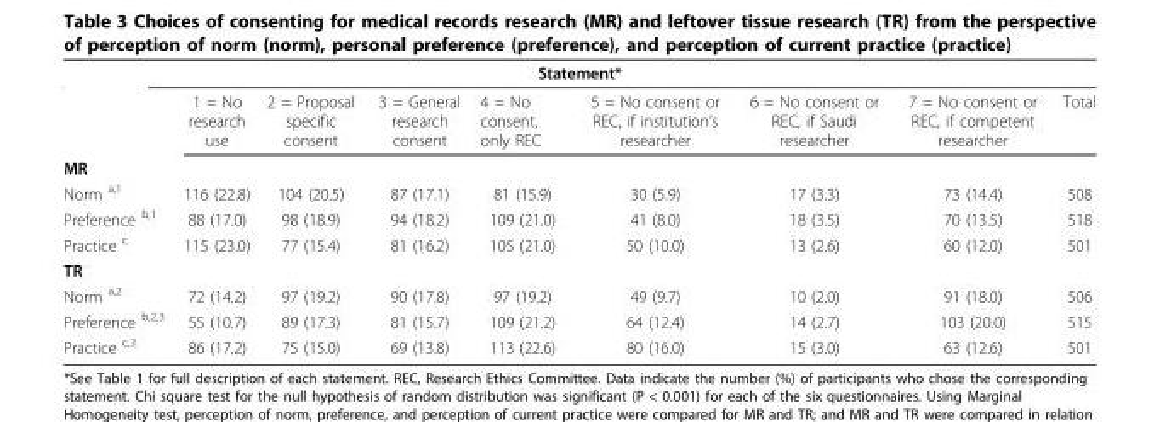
<table><thead><tr><td colspan="9">Statement*</td></tr><tr><td></td><td>1 = No research use</td><td>2 = Proposal specific consent</td><td>3 = General research consent</td><td>4 = No consent, only REC</td><td>5 = No consent or REC, if institution’s researcher</td><td>6 = No consent or REC, if Saudi researcher</td><td>7 = No consent or REC, if competent researcher</td><td>Total</td></tr></thead><tbody><tr><td colspan="9">MR</td></tr><tr><td>Norm <sup>a,1</sup></td><td>116 (22.8)</td><td>104 (20.5)</td><td>87 (17.1)</td><td>81 (15.9)</td><td>30 (5.9)</td><td>17 (3.3)</td><td>73 (14.4)</td><td>508</td></tr><tr><td>Preference <sup>b,1</sup></td><td>88 (17.0)</td><td>98 (18.9)</td><td>94 (18.2)</td><td>109 (21.0)</td><td>41 (8.0)</td><td>18 (3.5)</td><td>70 (13.5)</td><td>518</td></tr><tr><td>Practice <sup>c</sup></td><td>115 (23.0)</td><td>77 (15.4)</td><td>81 (16.2)</td><td>105 (21.0)</td><td>50 (10.0)</td><td>13 (2.6)</td><td>60 (12.0)</td><td>501</td></tr><tr><td colspan="9">TR</td></tr><tr><td>Norm <sup>a,2</sup></td><td>72 (14.2)</td><td>97 (19.2)</td><td>90 (17.8)</td><td>97 (19.2)</td><td>49 (9.7)</td><td>10 (2.0)</td><td>91 (18.0)</td><td>506</td></tr><tr><td>Preference <sup>b,2,3</sup></td><td>55 (10.7)</td><td>89 (17.3)</td><td>81 (15.7)</td><td>109 (21.2)</td><td>64 (12.4)</td><td>14 (2.7)</td><td>103 (20.0)</td><td>515</td></tr><tr><td>Practice <sup>c,3</sup></td><td>86 (17.2)</td><td>75 (15.0)</td><td>69 (13.8)</td><td>113 (22.6)</td><td>80 (16.0)</td><td>15 (3.0)</td><td>63 (12.6)</td><td>501</td></tr></tbody></table>